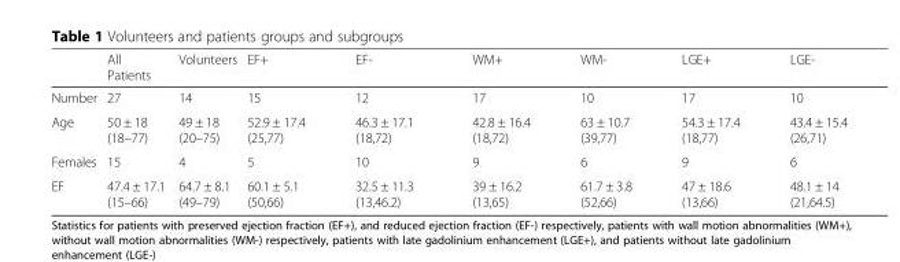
<table><thead><tr><td></td><td>All Patients</td><td>Volunteers</td><td>EF+</td><td>EF-</td><td>WM+</td><td>WM-</td><td>LGE+</td><td>LGE-</td></tr></thead><tbody><tr><td>Number</td><td>27</td><td>14</td><td>15</td><td>12</td><td>17</td><td>10</td><td>17</td><td>10</td></tr><tr><td>Age</td><td>50 ± 18 (18–77)</td><td>49 ± 18 (20–75)</td><td>52.9 ± 17.4 (25,77)</td><td>46.3 ± 17.1 (18,72)</td><td>42.8 ± 16.4 (18,72)</td><td>63 ± 10.7 (39,77)</td><td>54.3 ± 17.4 (18,77)</td><td>43.4 ± 15.4 (26,71)</td></tr><tr><td>Females</td><td>15</td><td>4</td><td>5</td><td>10</td><td>9</td><td>6</td><td>9</td><td>6</td></tr><tr><td>EF</td><td>47.4 ± 17.1 (15–66)</td><td>64.7 ± 8.1 (49–79)</td><td>60.1 ± 5.1 (50,66)</td><td>32.5 ± 11.3 (13,46.2)</td><td>39 ± 16.2 (13,65)</td><td>61.7 ± 3.8 (52,66)</td><td>47 ± 18.6 (13,66)</td><td>48.1 ± 14 (21,64.5)</td></tr></tbody></table>